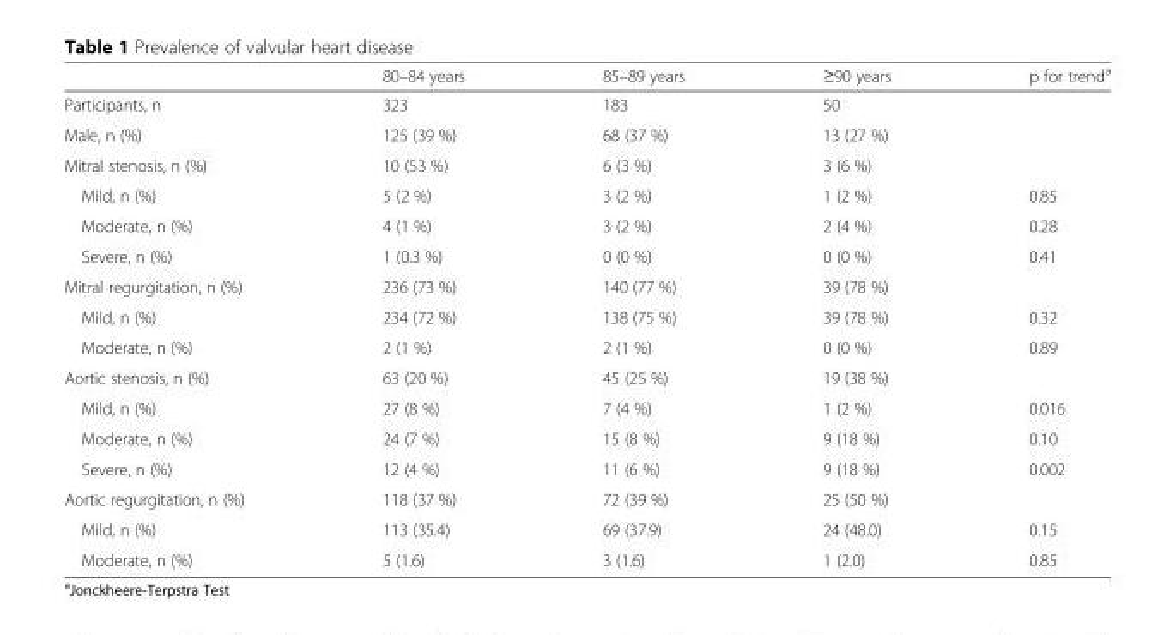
<table><thead><tr><td></td><td>80–84 years</td><td>85–89 years</td><td>≥90 years</td><td>p for trend<sup>a</sup></td></tr></thead><tbody><tr><td>Participants, n</td><td>323</td><td>183</td><td>50</td><td></td></tr><tr><td>Male, n (%)</td><td>125 (39 %)</td><td>68 (37 %)</td><td>13 (27 %)</td><td></td></tr><tr><td>Mitral stenosis, n (%)</td><td>10 (53 %)</td><td>6 (3 %)</td><td>3 (6 %)</td><td></td></tr><tr><td>Mild, n (%)</td><td>5 (2 %)</td><td>3 (2 %)</td><td>1 (2 %)</td><td>0.85</td></tr><tr><td>Moderate, n (%)</td><td>4 (1 %)</td><td>3 (2 %)</td><td>2 (4 %)</td><td>0.28</td></tr><tr><td>Severe, n (%)</td><td>1 (0.3 %)</td><td>0 (0 %)</td><td>0 (0 %)</td><td>0.41</td></tr><tr><td>Mitral regurgitation, n (%)</td><td>236 (73 %)</td><td>140 (77 %)</td><td>39 (78 %)</td><td></td></tr><tr><td>Mild, n (%)</td><td>234 (72 %)</td><td>138 (75 %)</td><td>39 (78 %)</td><td>0.32</td></tr><tr><td>Moderate, n (%)</td><td>2 (1 %)</td><td>2 (1 %)</td><td>0 (0 %)</td><td>0.89</td></tr><tr><td>Aortic stenosis, n (%)</td><td>63 (20 %)</td><td>45 (25 %)</td><td>19 (38 %)</td><td></td></tr><tr><td>Mild, n (%)</td><td>27 (8 %)</td><td>7 (4 %)</td><td>1 (2 %)</td><td>0.016</td></tr><tr><td>Moderate, n (%)</td><td>24 (7 %)</td><td>15 (8 %)</td><td>9 (18 %)</td><td>0.10</td></tr><tr><td>Severe, n (%)</td><td>12 (4 %)</td><td>11 (6 %)</td><td>9 (18 %)</td><td>0.002</td></tr><tr><td>Aortic regurgitation, n (%)</td><td>118 (37 %)</td><td>72 (39 %)</td><td>25 (50 %)</td><td></td></tr><tr><td>Mild, n (%)</td><td>113 (35.4)</td><td>69 (37.9)</td><td>24 (48.0)</td><td>0.15</td></tr><tr><td>Moderate, n (%)</td><td>5 (1.6)</td><td>3 (1.6)</td><td>1 (2.0)</td><td>0.85</td></tr></tbody></table>